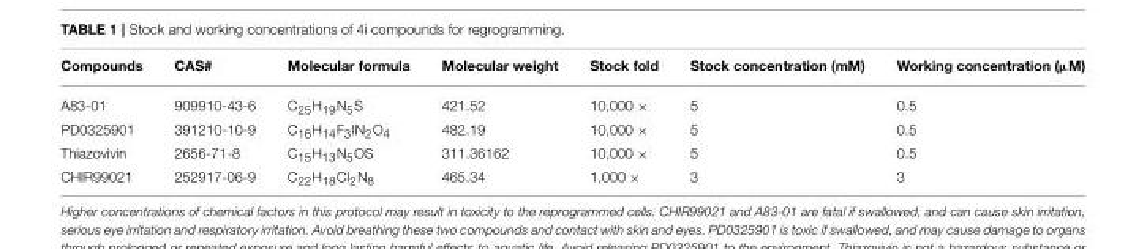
<table><thead><tr><td>Compounds</td><td>CAS#</td><td>Molecular formula</td><td>Molecular weight</td><td>Stock fold</td><td>Stock concentration (mM)</td><td>Working concentration (µM)</td></tr></thead><tbody><tr><td>A83-01</td><td>909910-43-6</td><td>C<sub>25</sub>H<sub>19</sub>N<sub>5</sub>S</td><td>421.52</td><td>10,000 ×</td><td>5</td><td>0.5</td></tr><tr><td>PD0325901</td><td>391210-10-9</td><td>C<sub>16</sub>H<sub>14</sub>F<sub>3</sub>IN<sub>2</sub>O<sub>4</sub></td><td>482.19</td><td>10,000 ×</td><td>5</td><td>0.5</td></tr><tr><td>Thiazovivin</td><td>2656-71-8</td><td>C<sub>15</sub>H<sub>13</sub>N<sub>5</sub>OS</td><td>311.36162</td><td>10,000 ×</td><td>5</td><td>0.5</td></tr><tr><td>CHIR99021</td><td>252917-06-9</td><td>C<sub>22</sub>H<sub>18</sub>CI<sub>2</sub>N<sub>8</sub></td><td>465.34</td><td>1,000 ×</td><td>3</td><td>3</td></tr></tbody></table>